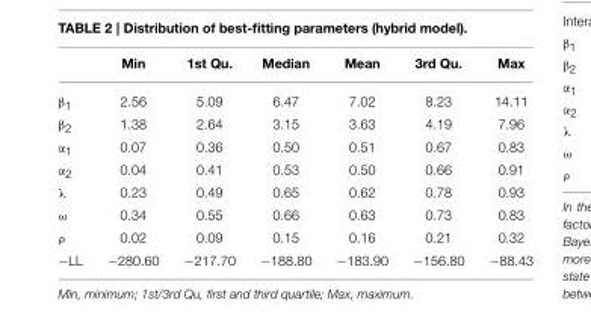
<table><thead><tr><td></td><td>Min</td><td>1st Qu.</td><td>Median</td><td>Mean</td><td>3rd Qu.</td><td>Max</td></tr></thead><tbody><tr><td>β<sub>1</sub></td><td>2.56</td><td>5.09</td><td>6.47</td><td>7.02</td><td>8.23</td><td>14.11</td></tr><tr><td>β<sub>2</sub></td><td>1.38</td><td>2.64</td><td>3.15</td><td>3.63</td><td>4.19</td><td>7.96</td></tr><tr><td>α<sub>1</sub></td><td>0.07</td><td>0.36</td><td>0.50</td><td>0.51</td><td>0.67</td><td>0.83</td></tr><tr><td>α<sub>2</sub></td><td>0.04</td><td>0.41</td><td>0.53</td><td>0.50</td><td>0.66</td><td>0.91</td></tr><tr><td>λ</td><td>0.23</td><td>0.49</td><td>0.65</td><td>0.62</td><td>0.78</td><td>0.93</td></tr><tr><td>ω</td><td>0.34</td><td>0.55</td><td>0.66</td><td>0.63</td><td>0.73</td><td>0.83</td></tr><tr><td>ρ</td><td>0.02</td><td>0.09</td><td>0.15</td><td>0.16</td><td>0.21</td><td>0.32</td></tr><tr><td>−LL</td><td>−280.60</td><td>−217.70</td><td>−188.80</td><td>−183.90</td><td>−156.80</td><td>−88.43</td></tr></tbody></table>